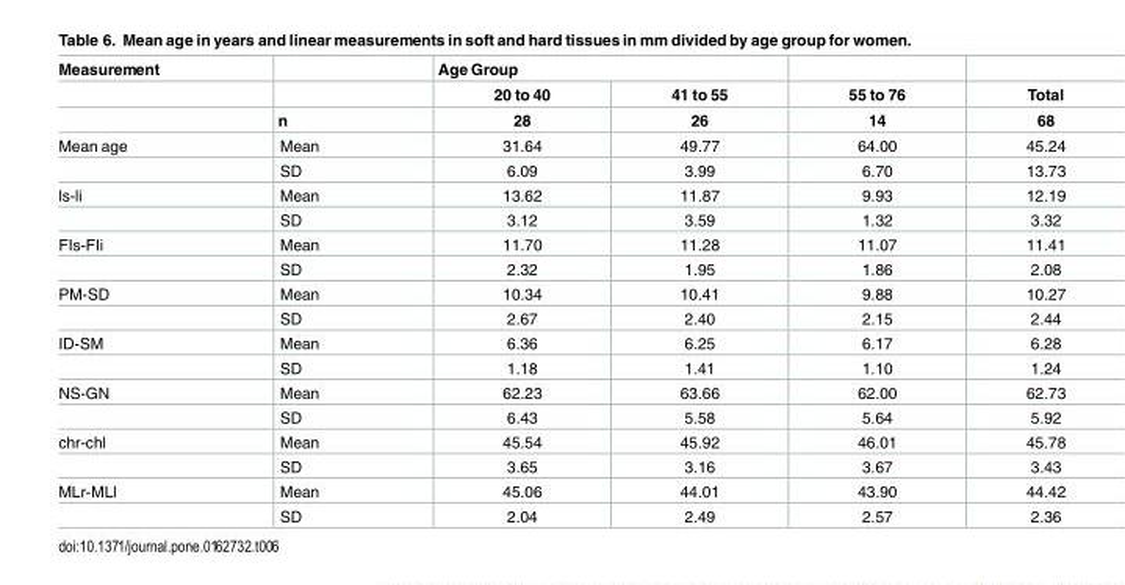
<table><thead><tr><td rowspan="3">Measurement</td><td rowspan="3">n</td><td colspan="2">Age Group</td><td rowspan="3">55 to 76 14</td><td rowspan="3">Total 68</td></tr><tr><td rowspan="2">20 to 40 28</td><td rowspan="2">41 to 55 26</td></tr><tr></tr></thead><tbody><tr><td rowspan="2">Mean age</td><td>Mean</td><td>31.64</td><td>49.77</td><td>64.00</td><td>45.24</td></tr><tr><td>SD</td><td>6.09</td><td>3.99</td><td>6.70</td><td>13.73</td></tr><tr><td rowspan="2">ls-li</td><td>Mean</td><td>13.62</td><td>11.87</td><td>9.93</td><td>12.19</td></tr><tr><td>SD</td><td>3.12</td><td>3.59</td><td>1.32</td><td>3.32</td></tr><tr><td rowspan="2">FIs-FIi</td><td>Mean</td><td>11.70</td><td>11.28</td><td>11.07</td><td>11.41</td></tr><tr><td>SD</td><td>2.32</td><td>1.95</td><td>1.86</td><td>2.08</td></tr><tr><td rowspan="2">PM-SD</td><td>Mean</td><td>10.34</td><td>10.41</td><td>9.88</td><td>10.27</td></tr><tr><td>SD</td><td>2.67</td><td>2.40</td><td>2.15</td><td>2.44</td></tr><tr><td rowspan="2">ID-SM</td><td>Mean</td><td>6.36</td><td>6.25</td><td>6.17</td><td>6.28</td></tr><tr><td>SD</td><td>1.18</td><td>1.41</td><td>1.10</td><td>1.24</td></tr><tr><td rowspan="2">NS-GN</td><td>Mean</td><td>62.23</td><td>63.66</td><td>62.00</td><td>62.73</td></tr><tr><td>SD</td><td>6.43</td><td>5.58</td><td>5.64</td><td>5.92</td></tr><tr><td rowspan="2">chr-chl</td><td>Mean</td><td>45.54</td><td>45.92</td><td>46.01</td><td>45.78</td></tr><tr><td>SD</td><td>3.65</td><td>3.16</td><td>3.67</td><td>3.43</td></tr><tr><td rowspan="2">MLr-MLl</td><td>Mean</td><td>45.06</td><td>44.01</td><td>43.90</td><td>44.42</td></tr><tr><td>SD</td><td>2.04</td><td>2.49</td><td>2.57</td><td>2.36</td></tr></tbody></table>